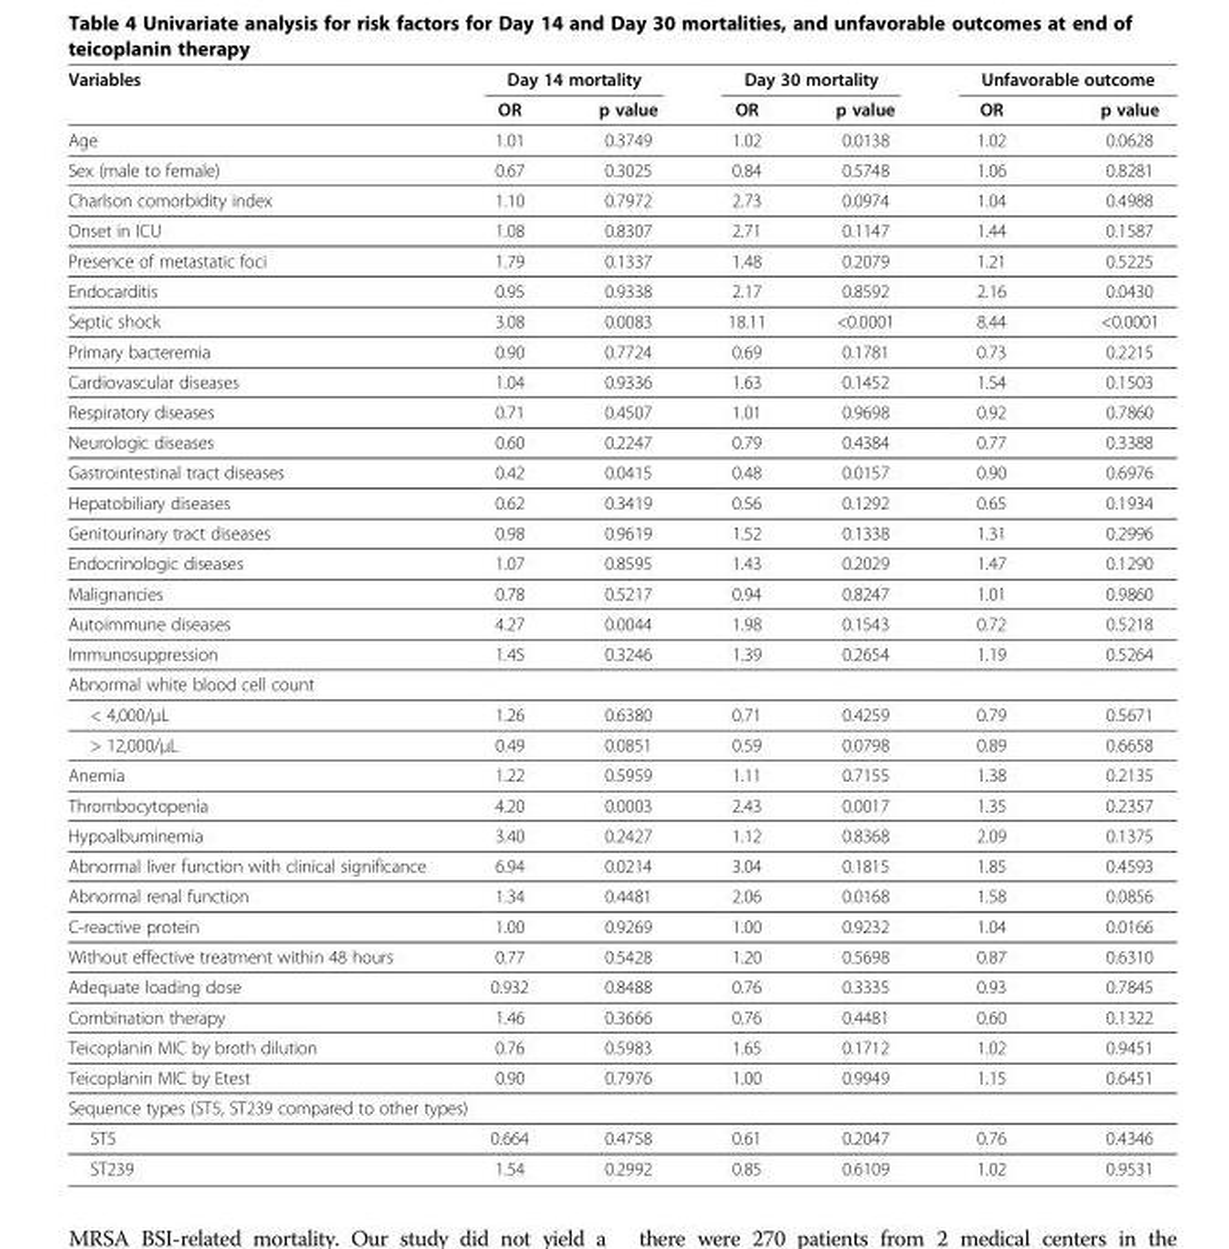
<table><thead><tr><td rowspan="2">Variables</td><td colspan="2">Day 14 mortality</td><td colspan="2">Day 30 mortality</td><td colspan="2">Unfavorable outcome</td></tr><tr><td>OR</td><td>p value</td><td>OR</td><td>p value</td><td>OR</td><td>p value</td></tr></thead><tbody><tr><td>Age</td><td>1.01</td><td>0.3749</td><td>1.02</td><td>0.0138</td><td>1.02</td><td>0.0628</td></tr><tr><td>Sex (male to female)</td><td>0.67</td><td>0.3025</td><td>0.84</td><td>0.5748</td><td>1.06</td><td>0.8281</td></tr><tr><td>Charlson comorbidity index</td><td>1.10</td><td>0.7972</td><td>2.73</td><td>0.0974</td><td>1.04</td><td>0.4988</td></tr><tr><td>Onset in ICU</td><td>1.08</td><td>0.8307</td><td>2.71</td><td>0.1147</td><td>1.44</td><td>0.1587</td></tr><tr><td>Presence of metastatic foci</td><td>1.79</td><td>0.1337</td><td>1.48</td><td>0.2079</td><td>1.21</td><td>0.5225</td></tr><tr><td>Endocarditis</td><td>0.95</td><td>0.9338</td><td>2.17</td><td>0.8592</td><td>2.16</td><td>0.0430</td></tr><tr><td>Septic shock</td><td>3.08</td><td>0.0083</td><td>18.11</td><td>&lt;0.0001</td><td>8.44</td><td>&lt;0.0001</td></tr><tr><td>Primary bacteremia</td><td>0.90</td><td>0.7724</td><td>0.69</td><td>0.1781</td><td>0.73</td><td>0.2215</td></tr><tr><td>Cardiovascular diseases</td><td>1.04</td><td>0.9336</td><td>1.63</td><td>0.1452</td><td>1.54</td><td>0.1503</td></tr><tr><td>Respiratory diseases</td><td>0.71</td><td>0.4507</td><td>1.01</td><td>0.9698</td><td>0.92</td><td>0.7860</td></tr><tr><td>Neurologic diseases</td><td>0.60</td><td>0.2247</td><td>0.79</td><td>0.4384</td><td>0.77</td><td>0.3388</td></tr><tr><td>Gastrointestinal tract diseases</td><td>0.42</td><td>0.0415</td><td>0.48</td><td>0.0157</td><td>0.90</td><td>0.6976</td></tr><tr><td>Hepatobiliary diseases</td><td>0.62</td><td>0.3419</td><td>0.56</td><td>0.1292</td><td>0.65</td><td>0.1934</td></tr><tr><td>Genitourinary tract diseases</td><td>0.98</td><td>0.9619</td><td>1.52</td><td>0.1338</td><td>1.31</td><td>0.2996</td></tr><tr><td>Endocrinologic diseases</td><td>1.07</td><td>0.8595</td><td>1.43</td><td>0.2029</td><td>1.47</td><td>0.1290</td></tr><tr><td>Malignancies</td><td>0.78</td><td>0.5217</td><td>0.94</td><td>0.8247</td><td>1.01</td><td>0.9860</td></tr><tr><td>Autoimmune diseases</td><td>4.27</td><td>0.0044</td><td>1.98</td><td>0.1543</td><td>0.72</td><td>0.5218</td></tr><tr><td>Immunosuppression</td><td>1.45</td><td>0.3246</td><td>1.39</td><td>0.2654</td><td>1.19</td><td>0.5264</td></tr><tr><td colspan="7">Abnormal white blood cell count</td></tr><tr><td>&lt; 4,000/μL</td><td>1.26</td><td>0.6380</td><td>0.71</td><td>0.4259</td><td>0.79</td><td>0.5671</td></tr><tr><td>&gt; 12,000/μL</td><td>0.49</td><td>0.0851</td><td>0.59</td><td>0.0798</td><td>0.89</td><td>0.6658</td></tr><tr><td>Anemia</td><td>1.22</td><td>0.5959</td><td>1.11</td><td>0.7155</td><td>1.38</td><td>0.2135</td></tr><tr><td>Thrombocytopenia</td><td>4.20</td><td>0.0003</td><td>2.43</td><td>0.0017</td><td>1.35</td><td>0.2357</td></tr><tr><td>Hypoalbuminemia</td><td>3.40</td><td>0.2427</td><td>1.12</td><td>0.8368</td><td>2.09</td><td>0.1375</td></tr><tr><td>Abnormal liver function with clinical significance</td><td>6.94</td><td>0.0214</td><td>3.04</td><td>0.1815</td><td>1.85</td><td>0.4593</td></tr><tr><td>Abnormal renal function</td><td>1.34</td><td>0.4481</td><td>2.06</td><td>0.0168</td><td>1.58</td><td>0.0856</td></tr><tr><td>C-reactive protein</td><td>1.00</td><td>0.9269</td><td>1.00</td><td>0.9232</td><td>1.04</td><td>0.0166</td></tr><tr><td>Without effective treatment within 48 hours</td><td>0.77</td><td>0.5428</td><td>1.20</td><td>0.5698</td><td>0.87</td><td>0.6310</td></tr><tr><td>Adequate loading dose</td><td>0.932</td><td>0.8488</td><td>0.76</td><td>0.3335</td><td>0.93</td><td>0.7845</td></tr><tr><td>Combination therapy</td><td>1.46</td><td>0.3666</td><td>0.76</td><td>0.4481</td><td>0.60</td><td>0.1322</td></tr><tr><td>Teicoplanin MIC by broth dilution</td><td>0.76</td><td>0.5983</td><td>1.65</td><td>0.1712</td><td>1.02</td><td>0.9451</td></tr><tr><td>Teicoplanin MIC by Etest</td><td>0.90</td><td>0.7976</td><td>1.00</td><td>0.9949</td><td>1.15</td><td>0.6451</td></tr><tr><td colspan="7">Sequence types (ST5, ST239 compared to other types)</td></tr><tr><td>ST5</td><td>0.664</td><td>0.4758</td><td>0.61</td><td>0.2047</td><td>0.76</td><td>0.4346</td></tr><tr><td>ST239</td><td>1.54</td><td>0.2992</td><td>0.85</td><td>0.6109</td><td>1.02</td><td>0.9531</td></tr></tbody></table>